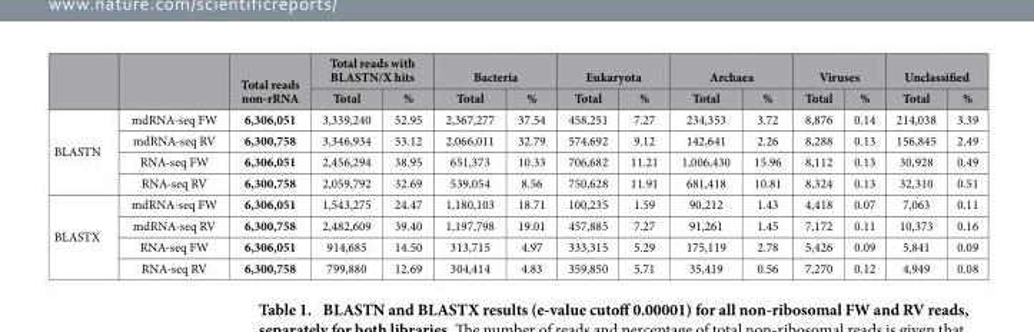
<table><thead><tr><td rowspan="2"></td><td rowspan="2"></td><td rowspan="2">Total reads non-rRNA</td><td colspan="2">Total reads with BLASTN/X hits</td><td colspan="2">Bacteria</td><td colspan="2">Eukaryota</td><td colspan="2">Archaea</td><td colspan="2">Viruses</td><td colspan="2">Unclassified</td></tr><tr><td>Total</td><td>%</td><td>Total</td><td>%</td><td>Total</td><td>%</td><td>Total</td><td>%</td><td>Total</td><td>%</td><td>Total</td><td>%</td></tr></thead><tbody><tr><td rowspan="4">BLASTN</td><td>mdRNA-seq FW</td><td>6,306,051</td><td>3,339,240</td><td>52.95</td><td>2,367,277</td><td>37.54</td><td>458,251</td><td>7.27</td><td>234,353</td><td>3.72</td><td>8,876</td><td>0.14</td><td>214,038</td><td>3.39</td></tr><tr><td>mdRNA-seq RV</td><td>6,300,758</td><td>3,346,934</td><td>53.12</td><td>2,066,011</td><td>32.79</td><td>574,692</td><td>9.12</td><td>142,641</td><td>2.26</td><td>8,288</td><td>0.13</td><td>156,845</td><td>2.49</td></tr><tr><td>RNA-seq FW</td><td>6,306,051</td><td>2,456,294</td><td>38.95</td><td>651,373</td><td>10.33</td><td>706,682</td><td>11.21</td><td>1,006,430</td><td>15.96</td><td>8,112</td><td>0.13</td><td>30,928</td><td>0.49</td></tr><tr><td>RNA-seq RV</td><td>6,300,758</td><td>2,059,792</td><td>32.69</td><td>539,054</td><td>8.56</td><td>750,628</td><td>11.91</td><td>681,418</td><td>10.81</td><td>8,324</td><td>0.13</td><td>32,310</td><td>0.51</td></tr><tr><td rowspan="4">BLASTX</td><td>mdRNA-seq FW</td><td>6,306,051</td><td>1,543,275</td><td>24.47</td><td>1,180,103</td><td>18.71</td><td>100,235</td><td>1.59</td><td>90,212</td><td>1.43</td><td>4,418</td><td>0.07</td><td>7,063</td><td>0.11</td></tr><tr><td>mdRNA-seq RV</td><td>6,300,758</td><td>2,482,609</td><td>39.40</td><td>1,197,798</td><td>19.01</td><td>457,885</td><td>7.27</td><td>91,261</td><td>1.45</td><td>7,172</td><td>0.11</td><td>10,373</td><td>0.16</td></tr><tr><td>RNA-seq FW</td><td>6,306,051</td><td>914,685</td><td>14.50</td><td>313,715</td><td>4.97</td><td>333,315</td><td>5.29</td><td>175,119</td><td>2.78</td><td>5,426</td><td>0.09</td><td>5,841</td><td>0.09</td></tr><tr><td>RNA-seq RV</td><td>6,300,758</td><td>799,880</td><td>12.69</td><td>304,414</td><td>4.83</td><td>359,850</td><td>5.71</td><td>35,419</td><td>0.56</td><td>7,270</td><td>0.12</td><td>4,949</td><td>0.08</td></tr></tbody></table>